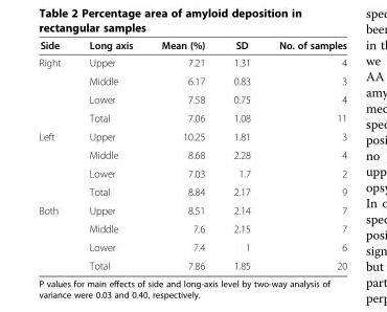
<table><thead><tr><td>Side</td><td>Long axis</td><td>Mean (%)</td><td>SD</td><td>No. of samples</td></tr></thead><tbody><tr><td rowspan="4">Right</td><td>Upper</td><td>7.21</td><td>1.31</td><td>4</td></tr><tr><td>Middle</td><td>6.17</td><td>0.83</td><td>3</td></tr><tr><td>Lower</td><td>7.58</td><td>0.75</td><td>4</td></tr><tr><td>Total</td><td>7.06</td><td>1.08</td><td>11</td></tr><tr><td rowspan="4">Left</td><td>Upper</td><td>10.25</td><td>1.81</td><td>3</td></tr><tr><td>Middle</td><td>8.68</td><td>2.28</td><td>4</td></tr><tr><td>Lower</td><td>7.03</td><td>1.7</td><td>2</td></tr><tr><td>Total</td><td>8.84</td><td>2.17</td><td>9</td></tr><tr><td rowspan="4">Both</td><td>Upper</td><td>8.51</td><td>2.14</td><td>7</td></tr><tr><td>Middle</td><td>7.6</td><td>2.15</td><td>7</td></tr><tr><td>Lower</td><td>7.4</td><td>1</td><td>6</td></tr><tr><td>Total</td><td>7.86</td><td>1.85</td><td>20</td></tr></tbody></table>